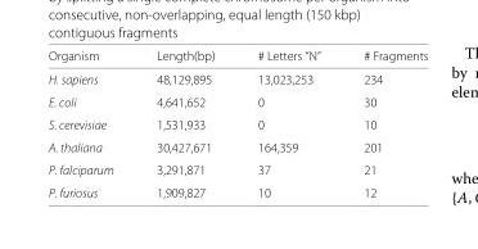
<table><thead><tr><td>Organism</td><td>Length(bp)</td><td># Letters “N”</td><td># Fragments</td></tr></thead><tbody><tr><td>H. sapiens</td><td>48,129,895</td><td>13,023,253</td><td>234</td></tr><tr><td>E. coli</td><td>4,641,652</td><td>0</td><td>30</td></tr><tr><td>S. cerevisiae</td><td>1,531,933</td><td>0</td><td>10</td></tr><tr><td>A. thaliana</td><td>30,427,671</td><td>164,359</td><td>201</td></tr><tr><td>P. falciparum</td><td>3,291,871</td><td>37</td><td>21</td></tr><tr><td>P. furiosus</td><td>1,909,827</td><td>10</td><td>12</td></tr></tbody></table>